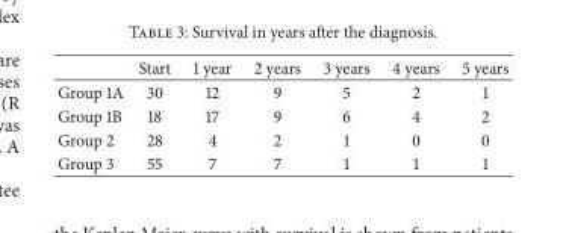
<table><thead><tr><td></td><td>Start</td><td>1 year</td><td>2 years</td><td>3 years</td><td>4 years</td><td>5 years</td></tr></thead><tbody><tr><td>Group 1A</td><td>30</td><td>12</td><td>9</td><td>5</td><td>2</td><td>1</td></tr><tr><td>Group 1B</td><td>18</td><td>17</td><td>9</td><td>6</td><td>4</td><td>2</td></tr><tr><td>Group 2</td><td>28</td><td>4</td><td>2</td><td>1</td><td>0</td><td>0</td></tr><tr><td>Group 3</td><td>55</td><td>7</td><td>7</td><td>1</td><td>1</td><td>1</td></tr></tbody></table>